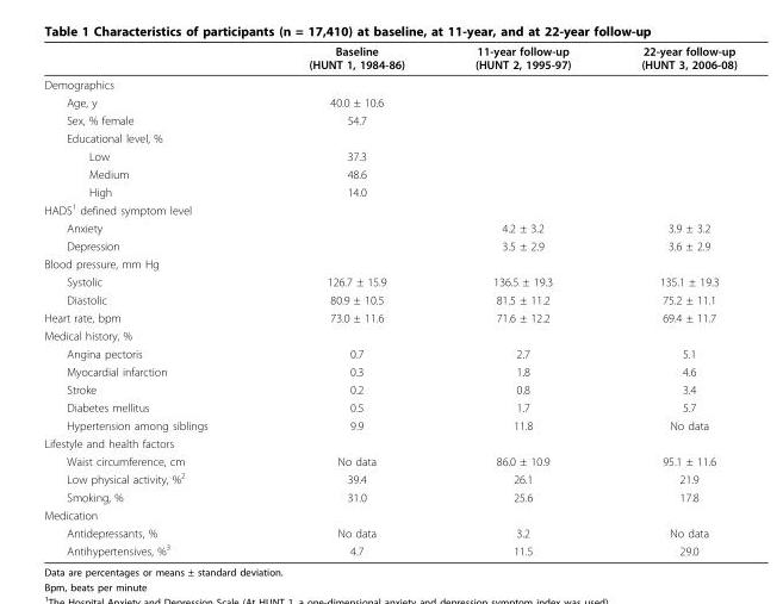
<table><thead><tr><td></td><td>Baseline (HUNT 1, 1984-86)</td><td>11-year follow-up (HUNT 2, 1995-97)</td><td>22-year follow-up (HUNT 3, 2006-08)</td></tr></thead><tbody><tr><td colspan="4">Demographics</td></tr><tr><td>Age, y</td><td>40.0 ± 10.6</td><td></td><td></td></tr><tr><td>Sex, % female</td><td>54.7</td><td></td><td></td></tr><tr><td colspan="4">Educational level, %</td></tr><tr><td>Low</td><td>37.3</td><td></td><td></td></tr><tr><td>Medium</td><td>48.6</td><td></td><td></td></tr><tr><td>High</td><td>14.0</td><td></td><td></td></tr><tr><td colspan="4">HADS<sup>1</sup> defined symptom level</td></tr><tr><td>Anxiety</td><td></td><td>4.2 ± 3.2</td><td>3.9 ± 3.2</td></tr><tr><td>Depression</td><td></td><td>3.5 ± 2.9</td><td>3.6 ± 2.9</td></tr><tr><td colspan="4">Blood pressure, mm Hg</td></tr><tr><td>Systolic</td><td>126.7 ± 15.9</td><td>136.5 ± 19.3</td><td>135.1 ± 19.3</td></tr><tr><td>Diastolic</td><td>80.9 ± 10.5</td><td>81.5 ± 11.2</td><td>75.2 ± 11.1</td></tr><tr><td>Heart rate, bpm</td><td>73.0 ± 11.6</td><td>71.6 ± 12.2</td><td>69.4 ± 11.7</td></tr><tr><td colspan="4">Medical history, %</td></tr><tr><td>Angina pectoris</td><td>0.7</td><td>2.7</td><td>5.1</td></tr><tr><td>Myocardial infarction</td><td>0.3</td><td>1.8</td><td>4.6</td></tr><tr><td>Stroke</td><td>0.2</td><td>0.8</td><td>3.4</td></tr><tr><td>Diabetes mellitus</td><td>0.5</td><td>1.7</td><td>5.7</td></tr><tr><td>Hypertension among siblings</td><td>9.9</td><td>11.8</td><td>No data</td></tr><tr><td colspan="4">Lifestyle and health factors</td></tr><tr><td>Waist circumference, cm</td><td>No data</td><td>86.0 ± 10.9</td><td>95.1 ± 11.6</td></tr><tr><td>Low physical activity, %<sup>2</sup></td><td>39.4</td><td>26.1</td><td>21.9</td></tr><tr><td>Smoking, %</td><td>31.0</td><td>25.6</td><td>17.8</td></tr><tr><td colspan="4">Medication</td></tr><tr><td>Antidepressants, %</td><td>No data</td><td>3.2</td><td>No data</td></tr><tr><td>Antihypertensives, %<sup>3</sup></td><td>4.7</td><td>11.5</td><td>29.0</td></tr></tbody></table>